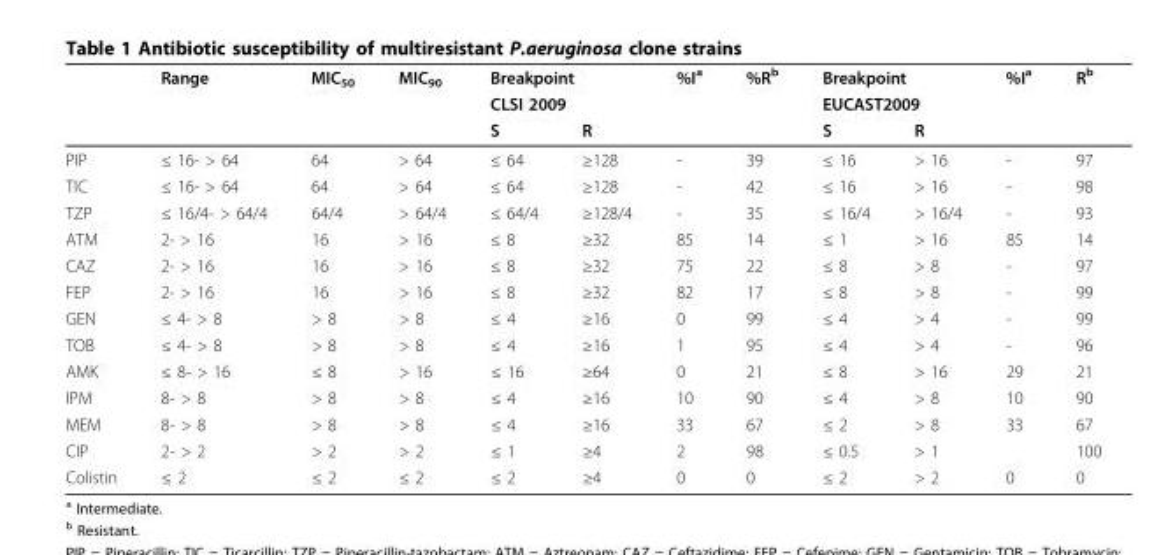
<table><thead><tr><td rowspan="3"></td><td rowspan="3">Range</td><td rowspan="3">MIC<sub>50</sub></td><td rowspan="3">MIC<sub>90</sub></td><td rowspan="2" colspan="2">Breakpoint CLSI 2009</td><td rowspan="3">%I<sup>a</sup></td><td rowspan="3">%R<sup>b</sup></td><td rowspan="2" colspan="2">Breakpoint EUCAST2009</td><td rowspan="3">%I<sup>a</sup></td><td rowspan="3">R<sup>b</sup></td></tr><tr></tr><tr><td>S</td><td>R</td><td>S</td><td>R</td></tr></thead><tbody><tr><td>PIP</td><td>≤ 16- &gt; 64</td><td>64</td><td>&gt; 64</td><td>≤ 64</td><td>≥128</td><td>-</td><td>39</td><td>≤ 16</td><td>&gt; 16</td><td>-</td><td>97</td></tr><tr><td>TIC</td><td>≤ 16- &gt; 64</td><td>64</td><td>&gt; 64</td><td>≤ 64</td><td>≥128</td><td>-</td><td>42</td><td>≤ 16</td><td>&gt; 16</td><td>-</td><td>98</td></tr><tr><td>TZP</td><td>≤ 16/4- &gt; 64/4</td><td>64/4</td><td>&gt; 64/4</td><td>≤ 64/4</td><td>≥128/4</td><td>-</td><td>35</td><td>≤ 16/4</td><td>&gt; 16/4</td><td>-</td><td>93</td></tr><tr><td>ATM</td><td>2- &gt; 16</td><td>16</td><td>&gt; 16</td><td>≤ 8</td><td>≥32</td><td>85</td><td>14</td><td>≤ 1</td><td>&gt; 16</td><td>85</td><td>14</td></tr><tr><td>CAZ</td><td>2- &gt; 16</td><td>16</td><td>&gt; 16</td><td>≤ 8</td><td>≥32</td><td>75</td><td>22</td><td>≤ 8</td><td>&gt; 8</td><td>-</td><td>97</td></tr><tr><td>FEP</td><td>2- &gt; 16</td><td>16</td><td>&gt; 16</td><td>≤ 8</td><td>≥32</td><td>82</td><td>17</td><td>≤ 8</td><td>&gt; 8</td><td>-</td><td>99</td></tr><tr><td>GEN</td><td>≤ 4- &gt; 8</td><td>&gt; 8</td><td>&gt; 8</td><td>≤ 4</td><td>≥16</td><td>0</td><td>99</td><td>≤ 4</td><td>&gt; 4</td><td>-</td><td>99</td></tr><tr><td>TOB</td><td>≤ 4- &gt; 8</td><td>&gt; 8</td><td>&gt; 8</td><td>≤ 4</td><td>≥16</td><td>1</td><td>95</td><td>≤ 4</td><td>&gt; 4</td><td>-</td><td>96</td></tr><tr><td>AMK</td><td>≤ 8- &gt; 16</td><td>≤ 8</td><td>&gt; 16</td><td>≤ 16</td><td>≥64</td><td>0</td><td>21</td><td>≤ 8</td><td>&gt; 16</td><td>29</td><td>21</td></tr><tr><td>IPM</td><td>8- &gt; 8</td><td>&gt; 8</td><td>&gt; 8</td><td>≤ 4</td><td>≥16</td><td>10</td><td>90</td><td>≤ 4</td><td>&gt; 8</td><td>10</td><td>90</td></tr><tr><td>MEM</td><td>8- &gt; 8</td><td>&gt; 8</td><td>&gt; 8</td><td>≤ 4</td><td>≥16</td><td>33</td><td>67</td><td>≤ 2</td><td>&gt; 8</td><td>33</td><td>67</td></tr><tr><td>CIP</td><td>2- &gt; 2</td><td>&gt; 2</td><td>&gt; 2</td><td>≤ 1</td><td>≥4</td><td>2</td><td>98</td><td>≤ 0.5</td><td>&gt; 1</td><td></td><td>100</td></tr><tr><td>Colistin</td><td>≤ 2</td><td>≤ 2</td><td>≤ 2</td><td>≤ 2</td><td>≥4</td><td>0</td><td>0</td><td>≤ 2</td><td>&gt; 2</td><td>0</td><td>0</td></tr></tbody></table>